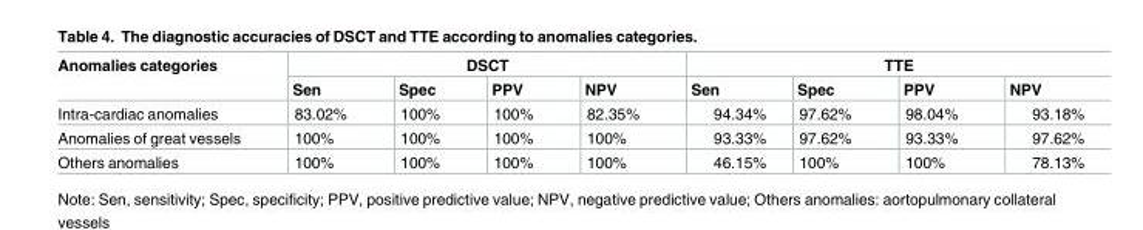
<table><thead><tr><td rowspan="2">Anomalies categories</td><td colspan="4">DSCT</td><td colspan="4">TTE</td></tr><tr><td>Sen</td><td>Spec</td><td>PPV</td><td>NPV</td><td>Sen</td><td>Spec</td><td>PPV</td><td>NPV</td></tr></thead><tbody><tr><td>Intra-cardiac anomalies</td><td>83.02%</td><td>100%</td><td>100%</td><td>82.35%</td><td>94.34%</td><td>97.62%</td><td>98.04%</td><td>93.18%</td></tr><tr><td>Anomalies of great vessels</td><td>100%</td><td>100%</td><td>100%</td><td>100%</td><td>93.33%</td><td>97.62%</td><td>93.33%</td><td>97.62%</td></tr><tr><td>Others anomalies</td><td>100%</td><td>100%</td><td>100%</td><td>100%</td><td>46.15%</td><td>100%</td><td>100%</td><td>78.13%</td></tr></tbody></table>